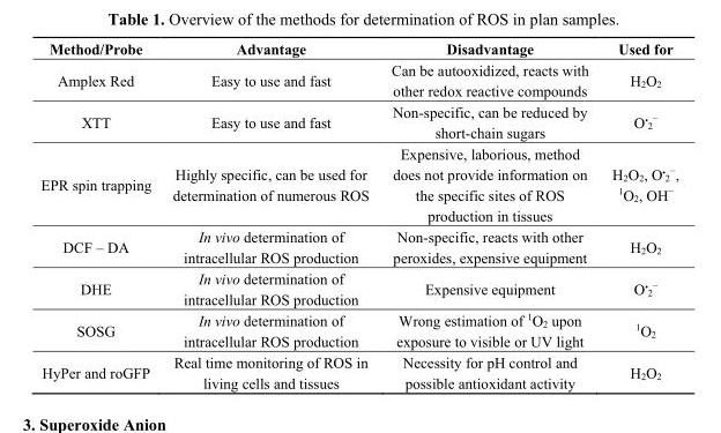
<table><thead><tr><td>Method/Probe</td><td>Advantage</td><td>Disadvantage</td><td>Used for</td></tr></thead><tbody><tr><td>Amplex Red</td><td>Easy to use and fast</td><td>Can be autooxidized, reacts with other redox reactive compounds</td><td>H<sub>2</sub>O<sub>2</sub></td></tr><tr><td>XTT</td><td>Easy to use and fast</td><td>Non-specific, can be reduced by short-chain sugars</td><td>O<sup>•</sup><sub>2</sub><sup>−</sup></td></tr><tr><td>EPR spin trapping</td><td>Highly specific, can be used for determination of numerous ROS</td><td>Expensive, laborious, method does not provide information on the specific sites of ROS production in tissues</td><td>H<sub>2</sub>O<sub>2</sub>, O<sup>•</sup><sub>2</sub><sup>−</sup>, <sup>1</sup>O<sub>2</sub>, OH<sup>−</sup></td></tr><tr><td>DCF – DA</td><td>In vivo determination of intracellular ROS production</td><td>Non-specific, reacts with other peroxides, expensive equipment</td><td>H<sub>2</sub>O<sub>2</sub></td></tr><tr><td>DHE</td><td>In vivo determination of intracellular ROS production</td><td>Expensive equipment</td><td>O<sup>•</sup><sub>2</sub><sup>−</sup></td></tr><tr><td>SOSG</td><td>In vivo determination of intracellular ROS production</td><td>Wrong estimation of <sup>1</sup>O<sub>2</sub> upon exposure to visible or UV light</td><td><sup>1</sup>O<sub>2</sub></td></tr><tr><td>HyPer and roGFP</td><td>Real time monitoring of ROS in living cells and tissues</td><td>Necessity for pH control and possible antioxidant activity</td><td>H<sub>2</sub>O<sub>2</sub></td></tr></tbody></table>